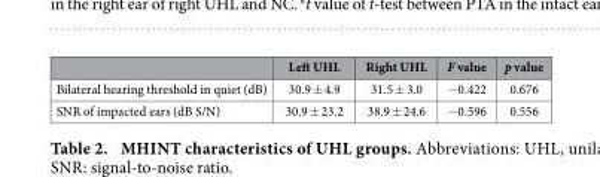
<table><thead><tr><td></td><td>Left UHL</td><td>Right UHL</td><td>F value</td><td>p value</td></tr></thead><tbody><tr><td>Bilateral hearing threshold in quiet (dB)</td><td>30.9 ± 4.9</td><td>31.5 ± 3.0</td><td>− 0.422</td><td>0.676</td></tr><tr><td>SNR of impacted ears (dB S/N)</td><td>30.9 ± 23.2</td><td>38.9 ± 24.6</td><td>− 0.596</td><td>0.556</td></tr></tbody></table>